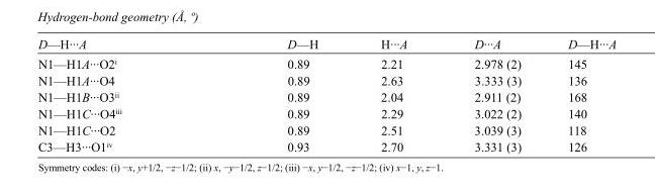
<table><tbody><tr><td>D—H···A</td><td>D—H</td><td>H···A</td><td>D···A</td><td>D—H···A</td></tr><tr><td>N1—H1A···O2<sup>i</sup></td><td>0.89</td><td>2.21</td><td>2.978 (2)</td><td>145</td></tr><tr><td>N1—H1A···O4</td><td>0.89</td><td>2.63</td><td>3.333 (3)</td><td>136</td></tr><tr><td>N1—H1B···O3<sup>ii</sup></td><td>0.89</td><td>2.04</td><td>2.911 (2)</td><td>168</td></tr><tr><td>N1—H1C···O4<sup>iii</sup></td><td>0.89</td><td>2.29</td><td>3.022 (2)</td><td>140</td></tr><tr><td>N1—H1C···O2</td><td>0.89</td><td>2.51</td><td>3.039 (3)</td><td>118</td></tr><tr><td>C3—H3···O1<sup>iv</sup></td><td>0.93</td><td>2.70</td><td>3.331 (3)</td><td>126</td></tr></tbody></table>